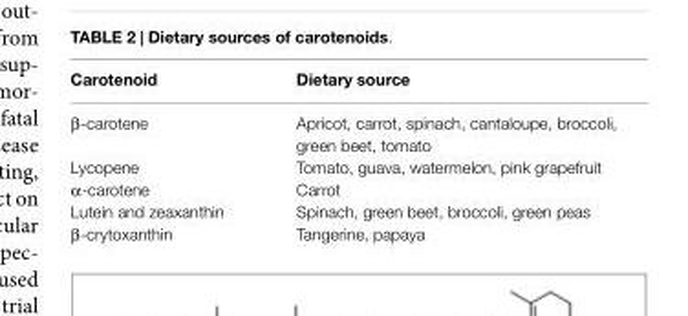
<table><thead><tr><td>Carotenoid</td><td>Dietary source</td></tr></thead><tbody><tr><td>β-carotene</td><td>Apricot, carrot, spinach, cantaloupe, broccoli, green beet, tomato</td></tr><tr><td>Lycopene</td><td>Tomato, guava, watermelon, pink grapefruit</td></tr><tr><td>α-carotene</td><td>Carrot</td></tr><tr><td>Lutein and zeaxanthin</td><td>Spinach, green beet, broccoli, green peas</td></tr><tr><td>β-crytoxanthin</td><td>Tangerine, papaya</td></tr></tbody></table>